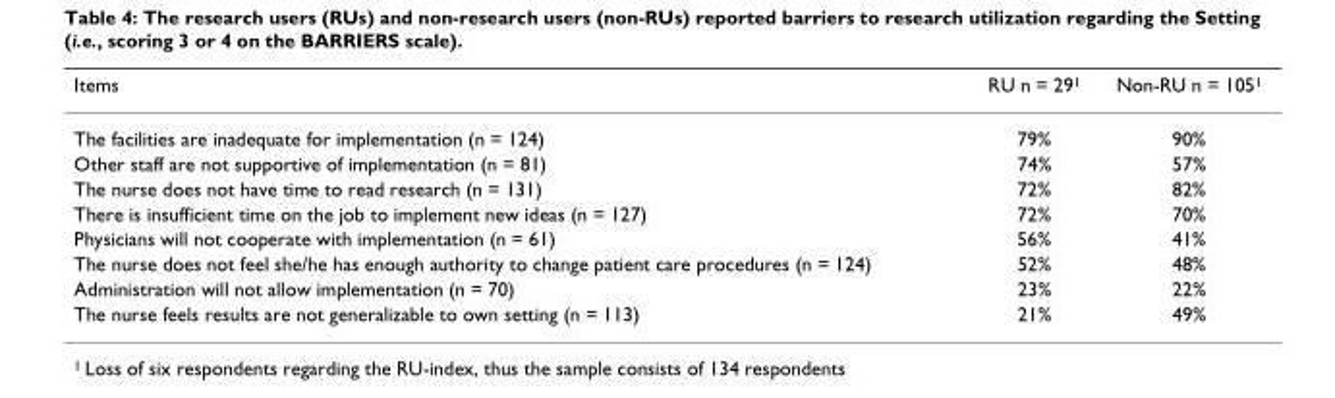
<table><thead><tr><td>Items</td><td>RU n = 29<sup>1</sup></td><td>Non-RU n = 105<sup>1</sup></td></tr></thead><tbody><tr><td>The facilities are inadequate for implementation (n = 124)</td><td>79%</td><td>90%</td></tr><tr><td>Other staff are not supportive of implementation (n = 81)</td><td>74%</td><td>57%</td></tr><tr><td>The nurse does not have time to read research (n = 131)</td><td>72%</td><td>82%</td></tr><tr><td>There is insufficient time on the job to implement new ideas (n = 127)</td><td>72%</td><td>70%</td></tr><tr><td>Physicians will not cooperate with implementation (n = 61)</td><td>56%</td><td>41%</td></tr><tr><td>The nurse does not feel she/he has enough authority to change patient care procedures (n = 124)</td><td>52%</td><td>48%</td></tr><tr><td>Administration will not allow implementation (n = 70)</td><td>23%</td><td>22%</td></tr><tr><td>The nurse feels results are not generalizable to own setting (n = 113)</td><td>21%</td><td>49%</td></tr></tbody></table>